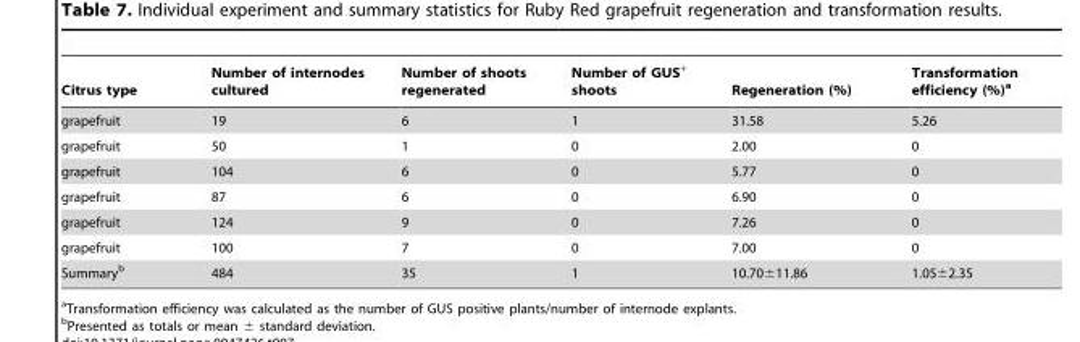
<table><thead><tr><td>Citrus type</td><td>Number of internodes cultured</td><td>Number of shoots regenerated</td><td>Number of GUS<sup>+</sup> shoots</td><td>Regeneration (%)</td><td>Transformation efficiency (%)<sup>a</sup></td></tr></thead><tbody><tr><td>grapefruit</td><td>19</td><td>6</td><td>1</td><td>31.58</td><td>5.26</td></tr><tr><td>grapefruit</td><td>50</td><td>1</td><td>0</td><td>2.00</td><td>0</td></tr><tr><td>grapefruit</td><td>104</td><td>6</td><td>0</td><td>5.77</td><td>0</td></tr><tr><td>grapefruit</td><td>87</td><td>6</td><td>0</td><td>6.90</td><td>0</td></tr><tr><td>grapefruit</td><td>124</td><td>9</td><td>0</td><td>7.26</td><td>0</td></tr><tr><td>grapefruit</td><td>100</td><td>7</td><td>0</td><td>7.00</td><td>0</td></tr><tr><td>Summary<sup>b</sup></td><td>484</td><td>35</td><td>1</td><td>10.70±11.86</td><td>1.05±2.35</td></tr></tbody></table>